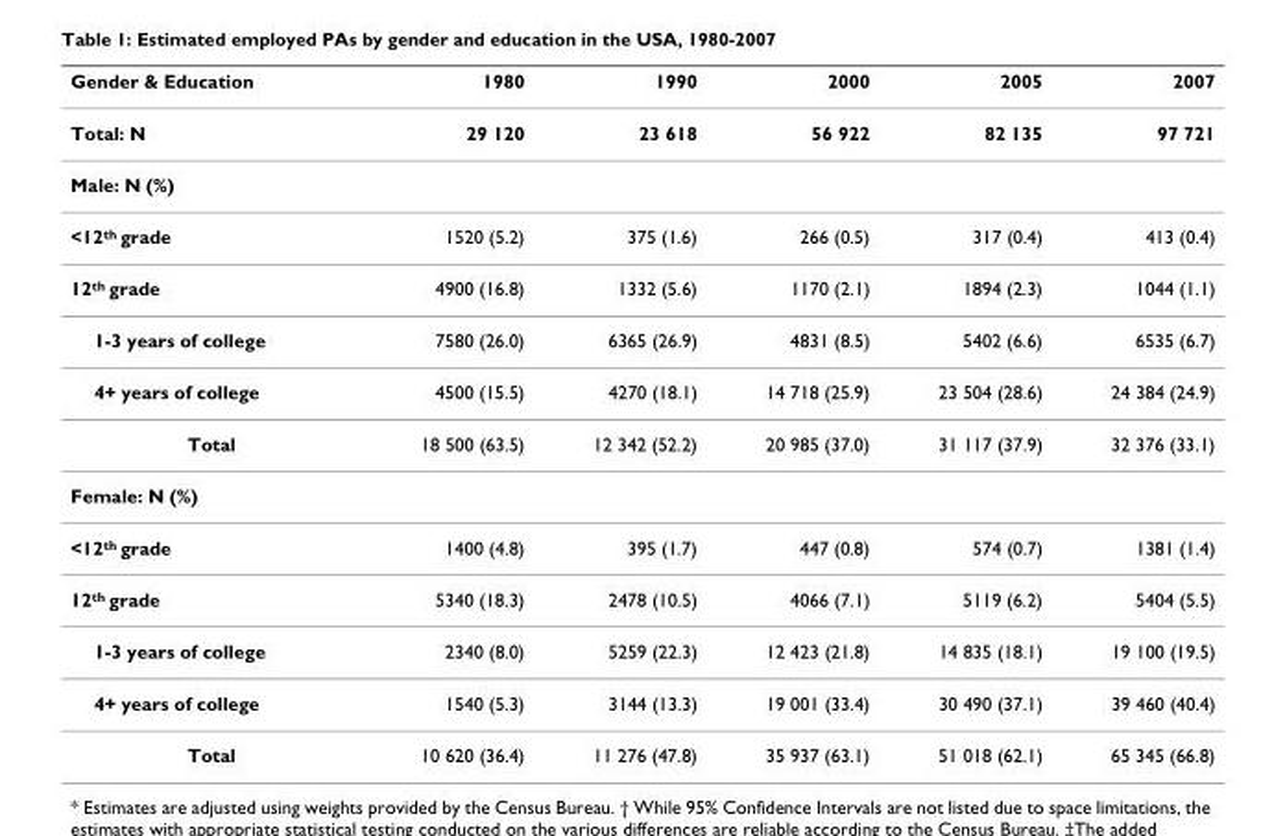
<table><thead><tr><td>Gender &amp; Education</td><td>1980</td><td>1990</td><td>2000</td><td>2005</td><td>2007</td></tr></thead><tbody><tr><td>Total: N</td><td>29 120</td><td>23 618</td><td>56 922</td><td>82 135</td><td>97 721</td></tr><tr><td colspan="6">Male: N (%)</td></tr><tr><td>&lt;12<sup>th</sup> grade</td><td>1520 (5.2)</td><td>375 (1.6)</td><td>266 (0.5)</td><td>317 (0.4)</td><td>413 (0.4)</td></tr><tr><td>12<sup>th</sup> grade</td><td>4900 (16.8)</td><td>1332 (5.6)</td><td>1170 (2.1)</td><td>1894 (2.3)</td><td>1044 (1.1)</td></tr><tr><td>1-3 years of college</td><td>7580 (26.0)</td><td>6365 (26.9)</td><td>4831 (8.5)</td><td>5402 (6.6)</td><td>6535 (6.7)</td></tr><tr><td>4+ years of college</td><td>4500 (15.5)</td><td>4270 (18.1)</td><td>14 718 (25.9)</td><td>23 504 (28.6)</td><td>24 384 (24.9)</td></tr><tr><td>Total</td><td>18 500 (63.5)</td><td>12 342 (52.2)</td><td>20 985 (37.0)</td><td>31 117 (37.9)</td><td>32 376 (33.1)</td></tr><tr><td colspan="6">Female: N (%)</td></tr><tr><td>&lt;12<sup>th</sup> grade</td><td>1400 (4.8)</td><td>395 (1.7)</td><td>447 (0.8)</td><td>574 (0.7)</td><td>1381 (1.4)</td></tr><tr><td>12<sup>th</sup> grade</td><td>5340 (18.3)</td><td>2478 (10.5)</td><td>4066 (7.1)</td><td>5119 (6.2)</td><td>5404 (5.5)</td></tr><tr><td>1-3 years of college</td><td>2340 (8.0)</td><td>5259 (22.3)</td><td>12 423 (21.8)</td><td>14 835 (18.1)</td><td>19 100 (19.5)</td></tr><tr><td>4+ years of college</td><td>1540 (5.3)</td><td>3144 (13.3)</td><td>19 001 (33.4)</td><td>30 490 (37.1)</td><td>39 460 (40.4)</td></tr><tr><td>Total</td><td>10 620 (36.4)</td><td>11 276 (47.8)</td><td>35 937 (63.1)</td><td>51 018 (62.1)</td><td>65 345 (66.8)</td></tr></tbody></table>